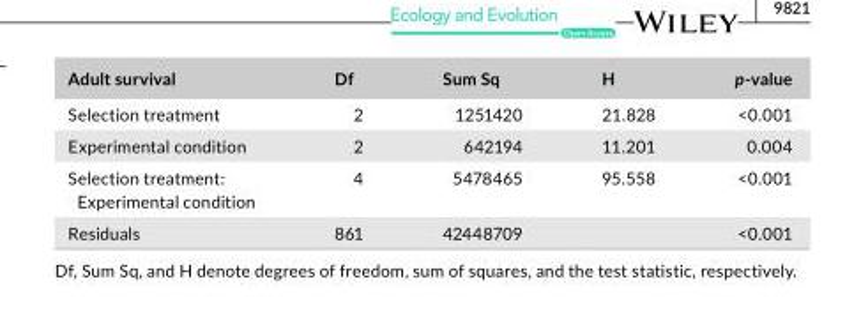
<table><thead><tr><td>Adult survival</td><td>Df</td><td>Sum Sq</td><td>H</td><td>p- value</td></tr></thead><tbody><tr><td>Selection treatment</td><td>2</td><td>1251420</td><td>21.828</td><td>&lt;0.001</td></tr><tr><td>Experimental condition</td><td>2</td><td>642194</td><td>11.201</td><td>0.004</td></tr><tr><td>Selection treatment: Experimental condition</td><td>4</td><td>5478465</td><td>95.558</td><td>&lt;0.001</td></tr><tr><td>Residuals</td><td>861</td><td>42448709</td><td></td><td>&lt;0.001</td></tr></tbody></table>